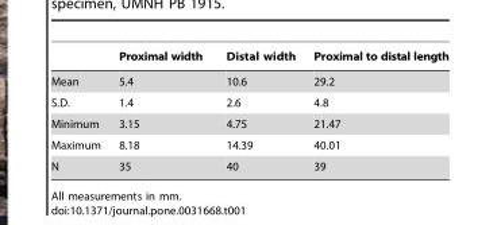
<table><thead><tr><td></td><td>Proximal width</td><td>Distal width</td><td>Proximal to distal length</td></tr></thead><tbody><tr><td>Mean</td><td>5.4</td><td>10.6</td><td>29.2</td></tr><tr><td>S.D.</td><td>1.4</td><td>2.6</td><td>4.8</td></tr><tr><td>Minimum</td><td>3.15</td><td>4.75</td><td>21.47</td></tr><tr><td>Maximum</td><td>8.18</td><td>14.39</td><td>40.01</td></tr><tr><td>N</td><td>35</td><td>40</td><td>39</td></tr></tbody></table>